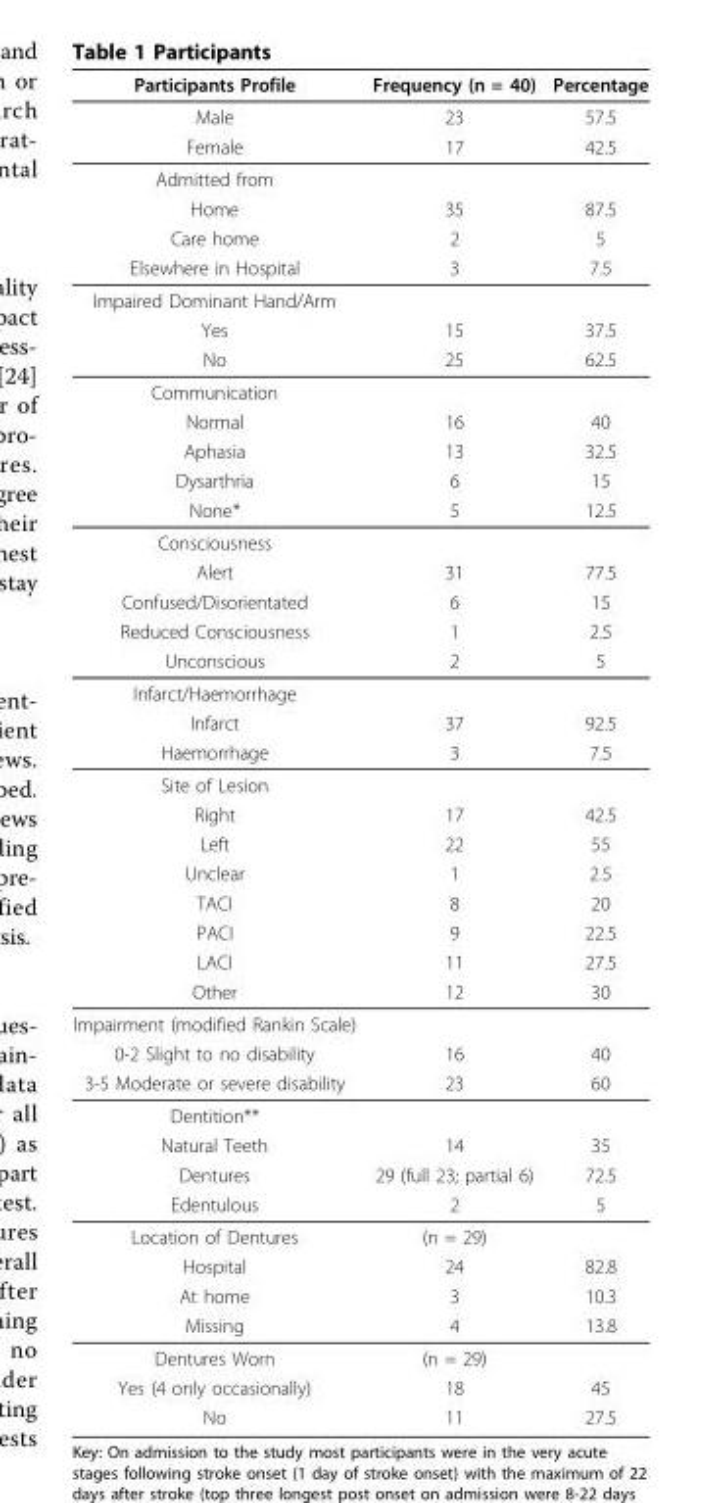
<table><thead><tr><td>Participants Profile</td><td>Frequency (n = 40)</td><td>Percentage</td></tr></thead><tbody><tr><td>Male</td><td>23</td><td>57.5</td></tr><tr><td>Female</td><td>17</td><td>42.5</td></tr><tr><td colspan="3">Admitted from</td></tr><tr><td>Home</td><td>35</td><td>87.5</td></tr><tr><td>Care home</td><td>2</td><td>5</td></tr><tr><td>Elsewhere in Hospital</td><td>3</td><td>7.5</td></tr><tr><td colspan="3">Impaired Dominant Hand/Arm</td></tr><tr><td>Yes</td><td>15</td><td>37.5</td></tr><tr><td>No</td><td>25</td><td>62.5</td></tr><tr><td colspan="3">Communication</td></tr><tr><td>Normal</td><td>16</td><td>40</td></tr><tr><td>Aphasia</td><td>13</td><td>32.5</td></tr><tr><td>Dysarthria</td><td>6</td><td>15</td></tr><tr><td>None*</td><td>5</td><td>12.5</td></tr><tr><td colspan="3">Consciousness</td></tr><tr><td>Alert</td><td>31</td><td>77.5</td></tr><tr><td>Confused/Disorientated</td><td>6</td><td>15</td></tr><tr><td>Reduced Consciousness</td><td>1</td><td>2.5</td></tr><tr><td>Unconscious</td><td>2</td><td>5</td></tr><tr><td colspan="3">Infarct/Haemorrhage</td></tr><tr><td>Infarct</td><td>37</td><td>92.5</td></tr><tr><td>Haemorrhage</td><td>3</td><td>7.5</td></tr><tr><td colspan="3">Site of Lesion</td></tr><tr><td>Right</td><td>17</td><td>42.5</td></tr><tr><td>Left</td><td>22</td><td>55</td></tr><tr><td>Unclear</td><td>1</td><td>2.5</td></tr><tr><td>TACI</td><td>8</td><td>20</td></tr><tr><td>PACI</td><td>9</td><td>22.5</td></tr><tr><td>LACI</td><td>11</td><td>27.5</td></tr><tr><td>Other</td><td>12</td><td>30</td></tr><tr><td colspan="3">Impairment (modified Rankin Scale)</td></tr><tr><td>0-2 Slight to no disability</td><td>16</td><td>40</td></tr><tr><td>3-5 Moderate or severe disability</td><td>23</td><td>60</td></tr><tr><td colspan="3">Dentition**</td></tr><tr><td>Natural Teeth</td><td>14</td><td>35</td></tr><tr><td>Dentures</td><td>29 (full 23; partial 6)</td><td>72.5</td></tr><tr><td>Edentulous</td><td>2</td><td>5</td></tr><tr><td>Location of Dentures</td><td>(n = 29)</td><td></td></tr><tr><td>Hospital</td><td>24</td><td>82.8</td></tr><tr><td>At home</td><td>3</td><td>10.3</td></tr><tr><td>Missing</td><td>4</td><td>13.8</td></tr><tr><td>Dentures Worn</td><td>(n = 29)</td><td></td></tr><tr><td>Yes (4 only occasionally)</td><td>18</td><td>45</td></tr><tr><td>No</td><td>11</td><td>27.5</td></tr></tbody></table>